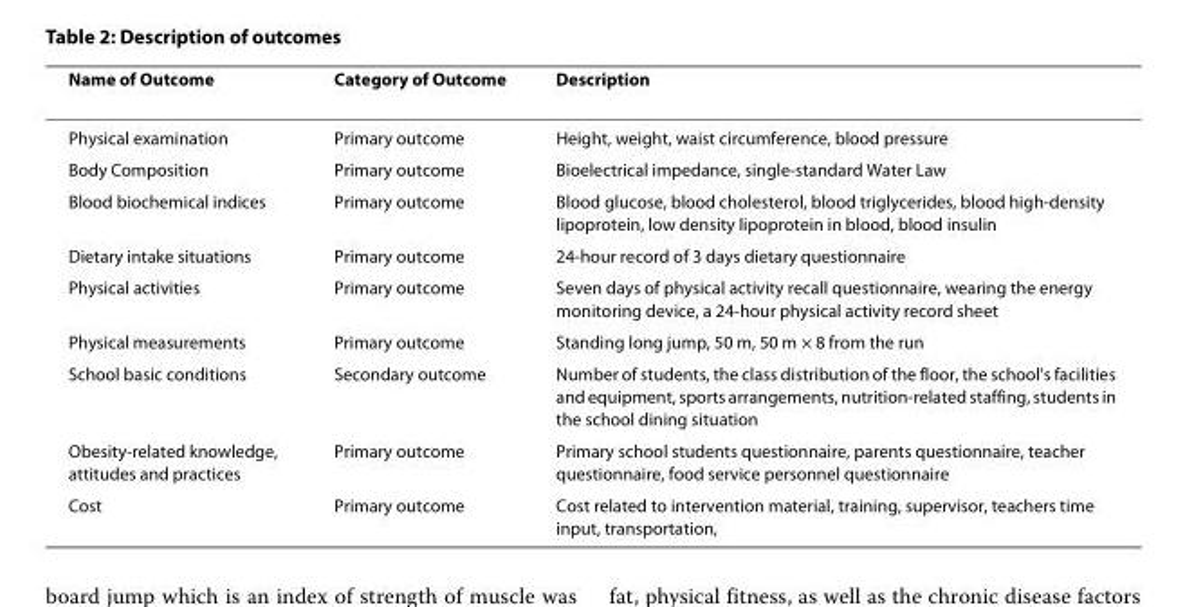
<table><thead><tr><td>Name of Outcome</td><td>Category of Outcome</td><td>Description</td></tr></thead><tbody><tr><td>Physical examination</td><td>Primary outcome</td><td>Height, weight, waist circumference, blood pressure</td></tr><tr><td>Body Composition</td><td>Primary outcome</td><td>Bioelectrical impedance, single-standard Water Law</td></tr><tr><td>Blood biochemical indices</td><td>Primary outcome</td><td>Blood glucose, blood cholesterol, blood triglycerides, blood high-density lipoprotein, low density lipoprotein in blood, blood insulin</td></tr><tr><td>Dietary intake situations</td><td>Primary outcome</td><td>24-hour record of 3 days dietary questionnaire</td></tr><tr><td>Physical activities</td><td>Primary outcome</td><td>Seven days of physical activity recall questionnaire, wearing the energy monitoring device, a 24-hour physical activity record sheet</td></tr><tr><td>Physical measurements</td><td>Primary outcome</td><td>Standing long jump, 50 m, 50 m × 8 from the run</td></tr><tr><td>School basic conditions</td><td>Secondary outcome</td><td>Number of students, the class distribution of the floor, the school&#x27;s facilities and equipment, sports arrangements, nutrition-related staffing, students in the school dining situation</td></tr><tr><td>Obesity-related knowledge, attitudes and practices</td><td>Primary outcome</td><td>Primary school students questionnaire, parents questionnaire, teacher questionnaire, food service personnel questionnaire</td></tr><tr><td>Cost</td><td>Primary outcome</td><td>Cost related to intervention material, training, supervisor, teachers time input, transportation,</td></tr></tbody></table>